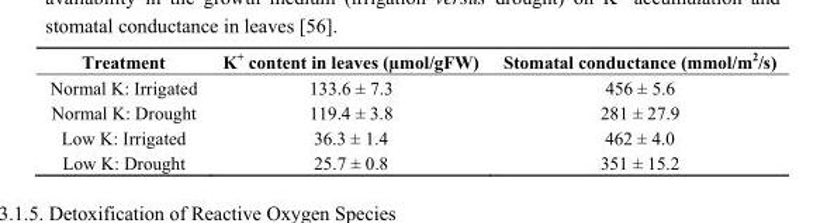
<table><thead><tr><td>Treatment</td><td>K<sup>+</sup> content in leaves (µmol/gFW)</td><td>Stomatal conductance (mmol/m<sup>2</sup>/s)</td></tr></thead><tbody><tr><td>Normal K: Irrigated</td><td>133.6 ± 7.3</td><td>456 ± 5.6</td></tr><tr><td>Normal K: Drought</td><td>119.4 ± 3.8</td><td>281 ± 27.9</td></tr><tr><td>Low K: Irrigated</td><td>36.3 ± 1.4</td><td>462 ± 4.0</td></tr><tr><td>Low K: Drought</td><td>25.7 ± 0.8</td><td>351 ± 15.2</td></tr></tbody></table>